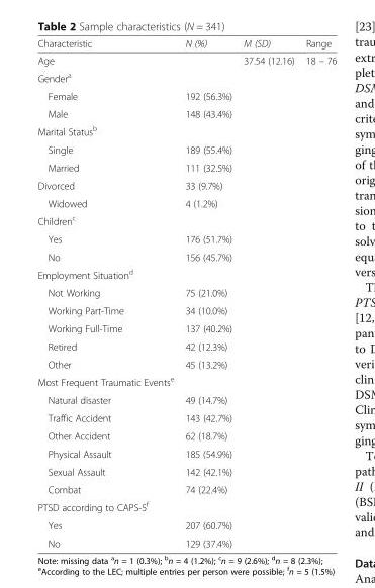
<table><thead><tr><td>Characteristic</td><td>N (%)</td><td>M (SD)</td><td>Range</td></tr></thead><tbody><tr><td>Age</td><td></td><td>37.54 (12.16)</td><td>18 – 76</td></tr><tr><td colspan="4">Gender<sup>a</sup></td></tr><tr><td>Female</td><td>192 (56.3%)</td><td></td><td></td></tr><tr><td>Male</td><td>148 (43.4%)</td><td></td><td></td></tr><tr><td colspan="4">Marital Status<sup>b</sup></td></tr><tr><td>Single</td><td>189 (55.4%)</td><td></td><td></td></tr><tr><td>Married</td><td>111 (32.5%)</td><td></td><td></td></tr><tr><td>Divorced</td><td>33 (9.7%)</td><td></td><td></td></tr><tr><td>Widowed</td><td>4 (1.2%)</td><td></td><td></td></tr><tr><td colspan="4">Children<sup>c</sup></td></tr><tr><td>Yes</td><td>176 (51.7%)</td><td></td><td></td></tr><tr><td>No</td><td>156 (45.7%)</td><td></td><td></td></tr><tr><td colspan="4">Employment Situation<sup>d</sup></td></tr><tr><td>Not Working</td><td>75 (21.0%)</td><td></td><td></td></tr><tr><td>Working Part-Time</td><td>34 (10.0%)</td><td></td><td></td></tr><tr><td>Working Full-Time</td><td>137 (40.2%)</td><td></td><td></td></tr><tr><td>Retired</td><td>42 (12.3%)</td><td></td><td></td></tr><tr><td>Other</td><td>45 (13.2%)</td><td></td><td></td></tr><tr><td colspan="4">Most Frequent Traumatic Events<sup>e</sup></td></tr><tr><td>Natural disaster</td><td>49 (14.7%)</td><td></td><td></td></tr><tr><td>Traffic Accident</td><td>143 (42.7%)</td><td></td><td></td></tr><tr><td>Other Accident</td><td>62 (18.7%)</td><td></td><td></td></tr><tr><td>Physical Assault</td><td>185 (54.9%)</td><td></td><td></td></tr><tr><td>Sexual Assault</td><td>142 (42.1%)</td><td></td><td></td></tr><tr><td>Combat</td><td>74 (22.4%)</td><td></td><td></td></tr><tr><td colspan="4">PTSD according to CAPS-5<sup>f</sup></td></tr><tr><td>Yes</td><td>207 (60.7%)</td><td></td><td></td></tr><tr><td>No</td><td>129 (37.4%)</td><td></td><td></td></tr></tbody></table>